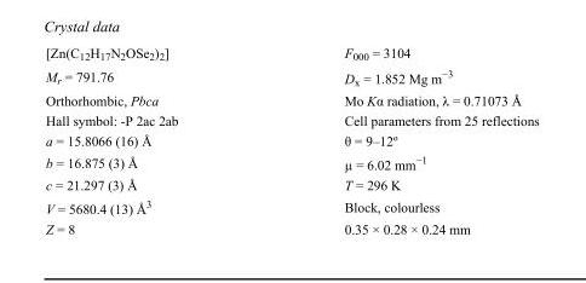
<table><tbody><tr><td>[Zn(C<sub>12</sub>H<sub>17</sub>N<sub>2</sub>OSe<sub>2</sub>)<sub>2</sub>]</td><td>F000 = 3104</td></tr><tr><td>M<sub>r</sub> = 791.76</td><td>D<sub>x</sub> = 1.852 Mg m<sup>−3</sup></td></tr><tr><td>Orthorhombic, Pbca</td><td>Mo Kα radiation, λ = 0.71073 Å</td></tr><tr><td>Hall symbol: -P 2ac 2ab</td><td>Cell parameters from 25 reflections</td></tr><tr><td>a = 15.8066 (16) Å</td><td>θ = 9–12º</td></tr><tr><td>b = 16.875 (3) Å</td><td>µ = 6.02 mm<sup>−1</sup></td></tr><tr><td>c = 21.297 (3) Å</td><td>T = 296 K</td></tr><tr><td>V = 5680.4 (13) Å<sup>3</sup></td><td>Block, colourless</td></tr><tr><td>Z = 8</td><td>0.35 × 0.28 × 0.24 mm</td></tr></tbody></table>